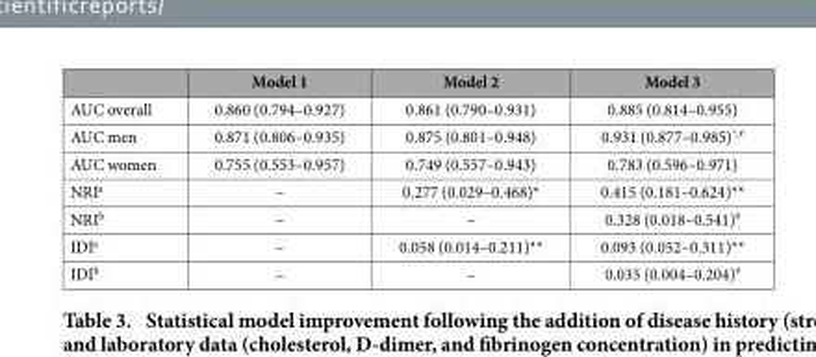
<table><thead><tr><td></td><td>Model 1</td><td>Model 2</td><td>Model 3</td></tr></thead><tbody><tr><td>AUC overall</td><td>0.860 (0.794–0.927)</td><td>0.861 (0.790–0.931)</td><td>0.885 (0.814–0.955)</td></tr><tr><td>AUC men</td><td>0.871 (0.806–0.935)</td><td>0.875 (0.801–0.948)</td><td>0.931 (0.877–0.985)<sup>*,#</sup></td></tr><tr><td>AUC women</td><td>0.755 (0.553–0.957)</td><td>0.749 (0.557–0.943)</td><td>0.783 (0.596–0.971)</td></tr><tr><td>NRI<sup>a</sup></td><td>–</td><td>0.277 (0.029–0.468)*</td><td>0.415 (0.181–0.624)**</td></tr><tr><td>NRI<sup>b</sup></td><td>–</td><td>–</td><td>0.328 (0.018–0.541)<sup>#</sup></td></tr><tr><td>IDI<sup>a</sup></td><td>–</td><td>0.058 (0.014–0.211)**</td><td>0.093 (0.052–0.311)**</td></tr><tr><td>IDI<sup>b</sup></td><td>–</td><td>–</td><td>0.035 (0.004–0.204)<sup>#</sup></td></tr></tbody></table>